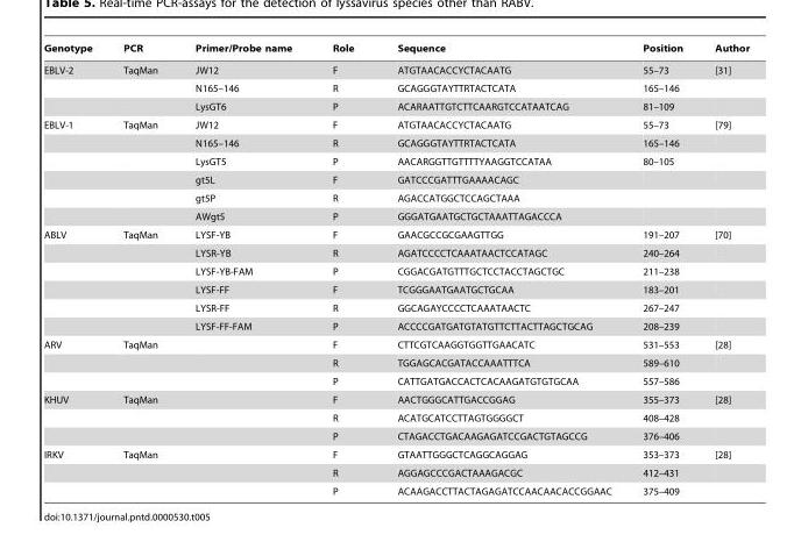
<table><thead><tr><td>Genotype</td><td>PCR</td><td>Primer/Probe name</td><td>Role</td><td>Sequence</td><td>Position</td><td>Author</td></tr></thead><tbody><tr><td rowspan="3">EBLV-2</td><td>TaqMan</td><td>JW12</td><td>F</td><td>ATGTAACACCYCTACAATG</td><td>55–73</td><td>[31]</td></tr><tr><td></td><td>N165–146</td><td>R</td><td>GCAGGGTAYTTRTACTCATA</td><td>165–146</td><td></td></tr><tr><td></td><td>LysGT6</td><td>P</td><td>ACARAATTGTCTTCAARGTCCATAATCAG</td><td>81–109</td><td></td></tr><tr><td rowspan="6">EBLV-1</td><td>TaqMan</td><td>JW12</td><td>F</td><td>ATGTAACACCYCTACAATG</td><td>55–73</td><td>[79]</td></tr><tr><td></td><td>N165–146</td><td>R</td><td>GCAGGGTAYTTRTACTCATA</td><td>165–146</td><td></td></tr><tr><td></td><td>LysGT5</td><td>P</td><td>AACARGGTTGTTTTYAAGGTCCATAA</td><td>80–105</td><td></td></tr><tr><td></td><td>gt5L</td><td>F</td><td>GATCCCGATTTGAAAACAGC</td><td></td><td></td></tr><tr><td></td><td>gt5P</td><td>R</td><td>AGACCATGGCTCCAGCTAAA</td><td></td><td></td></tr><tr><td></td><td>AWgt5</td><td>P</td><td>GGGATGAATGCTGCTAAATTAGACCCA</td><td></td><td></td></tr><tr><td rowspan="6">ABLV</td><td>TaqMan</td><td>LYSF-YB</td><td>F</td><td>GAACGCCGCGAAGTTGG</td><td>191–207</td><td>[70]</td></tr><tr><td></td><td>LYSR-YB</td><td>R</td><td>AGATCCCCTCAAATAACTCCATAGC</td><td>240–264</td><td></td></tr><tr><td></td><td>LYSF-YB-FAM</td><td>P</td><td>CGGACGATGTTTGCTCCTACCTAGCTGC</td><td>211–238</td><td></td></tr><tr><td></td><td>LYSF-FF</td><td>F</td><td>TCGGGAATGAATGCTGCAA</td><td>183–201</td><td></td></tr><tr><td></td><td>LYSR-FF</td><td>R</td><td>GGCAGAYCCCCTCAAATAACTC</td><td>267–247</td><td></td></tr><tr><td></td><td>LYSF-FF-FAM</td><td>P</td><td>ACCCCGATGATGTATGTTCTTACTTAGCTGCAG</td><td>208–239</td><td></td></tr><tr><td rowspan="3">ARV</td><td>TaqMan</td><td></td><td>F</td><td>CTTCGTCAAGGTGGTTGAACATC</td><td>531–553</td><td>[28]</td></tr><tr><td></td><td></td><td>R</td><td>TGGAGCACGATACCAAATTTCA</td><td>589–610</td><td></td></tr><tr><td></td><td></td><td>P</td><td>CATTGATGACCACTCACAAGATGTGTGCAA</td><td>557–586</td><td></td></tr><tr><td rowspan="3">KHUV</td><td>TaqMan</td><td></td><td>F</td><td>AACTGGGCATTGACCGGAG</td><td>355–373</td><td>[28]</td></tr><tr><td></td><td></td><td>R</td><td>ACATGCATCCTTAGTGGGGCT</td><td>408–428</td><td></td></tr><tr><td></td><td></td><td>P</td><td>CTAGACCTGACAAGAGATCCGACTGTAGCCG</td><td>376–406</td><td></td></tr><tr><td rowspan="3">IRKV</td><td>TaqMan</td><td></td><td>F</td><td>GTAATTGGGCTCAGGCAGGAG</td><td>353–373</td><td>[28]</td></tr><tr><td></td><td></td><td>R</td><td>AGGAGCCCGACTAAAGACGC</td><td>412–431</td><td></td></tr><tr><td></td><td></td><td>P</td><td>ACAAGACCTTACTAGAGATCCAACAACACCGGAAC</td><td>375–409</td><td></td></tr></tbody></table>